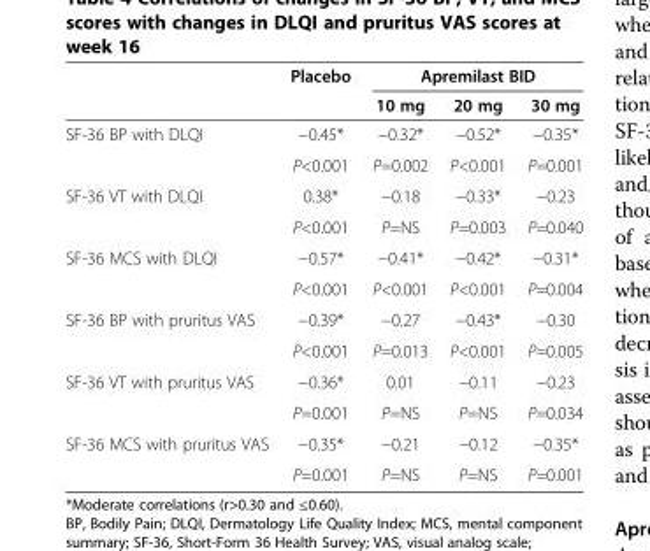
<table><thead><tr><td rowspan="2"></td><td rowspan="2">Placebo</td><td colspan="3">Apremilast BID</td></tr><tr><td>10 mg</td><td>20 mg</td><td>30 mg</td></tr></thead><tbody><tr><td rowspan="2">SF-36 BP with DLQI</td><td>−0.45*</td><td>−0.32*</td><td>−0.52*</td><td>−0.35*</td></tr><tr><td>P&lt;0.001</td><td>P=0.002</td><td>P&lt;0.001</td><td>P=0.001</td></tr><tr><td rowspan="2">SF-36 VT with DLQI</td><td>0.38*</td><td>−0.18</td><td>−0.33*</td><td>−0.23</td></tr><tr><td>P&lt;0.001</td><td>P=NS</td><td>P=0.003</td><td>P=0.040</td></tr><tr><td rowspan="2">SF-36 MCS with DLQI</td><td>−0.57*</td><td>−0.41*</td><td>−0.42*</td><td>−0.31*</td></tr><tr><td>P&lt;0.001</td><td>P&lt;0.001</td><td>P&lt;0.001</td><td>P=0.004</td></tr><tr><td rowspan="2">SF-36 BP with pruritus VAS</td><td>−0.39*</td><td>−0.27</td><td>−0.43*</td><td>−0.30</td></tr><tr><td>P&lt;0.001</td><td>P=0.013</td><td>P&lt;0.001</td><td>P=0.005</td></tr><tr><td rowspan="2">SF-36 VT with pruritus VAS</td><td>−0.36*</td><td>0.01</td><td>−0.11</td><td>−0.23</td></tr><tr><td>P=0.001</td><td>P=NS</td><td>P=NS</td><td>P=0.034</td></tr><tr><td rowspan="2">SF-36 MCS with pruritus VAS</td><td>−0.35*</td><td>−0.21</td><td>−0.12</td><td>−0.35*</td></tr><tr><td>P=0.001</td><td>P=NS</td><td>P=NS</td><td>P=0.001</td></tr></tbody></table>